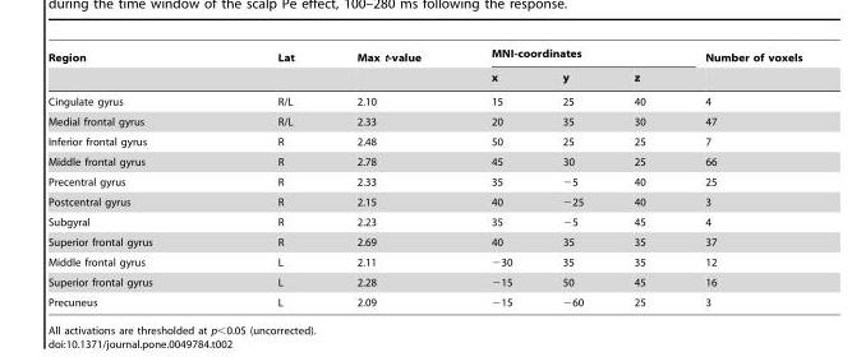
<table><thead><tr><td rowspan="2">Region</td><td rowspan="2">Lat</td><td rowspan="2">Max t-value</td><td colspan="3">MNI-coordinates</td><td rowspan="2">Number of voxels</td></tr><tr><td>x</td><td>y</td><td>z</td></tr></thead><tbody><tr><td>Cingulate gyrus</td><td>R/L</td><td>2.10</td><td>15</td><td>25</td><td>40</td><td>4</td></tr><tr><td>Medial frontal gyrus</td><td>R/L</td><td>2.33</td><td>20</td><td>35</td><td>30</td><td>47</td></tr><tr><td>Inferior frontal gyrus</td><td>R</td><td>2.48</td><td>50</td><td>25</td><td>25</td><td>7</td></tr><tr><td>Middle frontal gyrus</td><td>R</td><td>2.78</td><td>45</td><td>30</td><td>25</td><td>66</td></tr><tr><td>Precentral gyrus</td><td>R</td><td>2.33</td><td>35</td><td>−5</td><td>40</td><td>25</td></tr><tr><td>Postcentral gyrus</td><td>R</td><td>2.15</td><td>40</td><td>−25</td><td>40</td><td>3</td></tr><tr><td>Subgyral</td><td>R</td><td>2.23</td><td>35</td><td>−5</td><td>45</td><td>4</td></tr><tr><td>Superior frontal gyrus</td><td>R</td><td>2.69</td><td>40</td><td>35</td><td>35</td><td>37</td></tr><tr><td>Middle frontal gyrus</td><td>L</td><td>2.11</td><td>−30</td><td>35</td><td>35</td><td>12</td></tr><tr><td>Superior frontal gyrus</td><td>L</td><td>2.28</td><td>−15</td><td>50</td><td>45</td><td>16</td></tr><tr><td>Precuneus</td><td>L</td><td>2.09</td><td>−15</td><td>−60</td><td>25</td><td>3</td></tr></tbody></table>